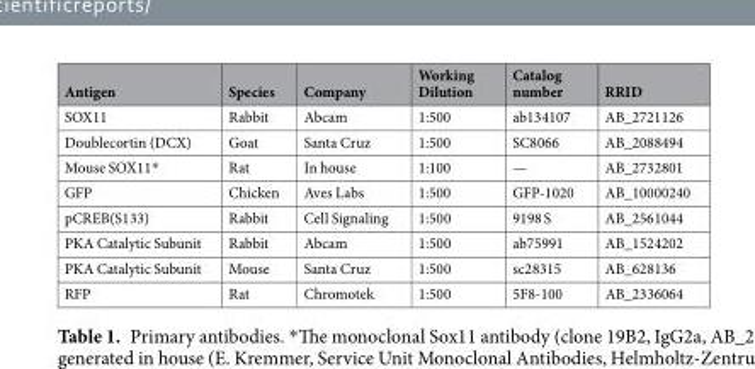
<table><thead><tr><td>Antigen</td><td>Species</td><td>Company</td><td>Working Dilution</td><td>Catalog number</td><td>RRID</td></tr></thead><tbody><tr><td>SOX11</td><td>Rabbit</td><td>Abcam</td><td>1:500</td><td>ab134107</td><td>AB_2721126</td></tr><tr><td>Doublecortin (DCX)</td><td>Goat</td><td>Santa Cruz</td><td>1:500</td><td>SC8066</td><td>AB_2088494</td></tr><tr><td>Mouse SOX11*</td><td>Rat</td><td>In house</td><td>1:100</td><td>—</td><td>AB_2732801</td></tr><tr><td>GFP</td><td>Chicken</td><td>Aves Labs</td><td>1:500</td><td>GFP-1020</td><td>AB_10000240</td></tr><tr><td>pCREB(S133)</td><td>Rabbit</td><td>Cell Signaling</td><td>1:500</td><td>9198 S</td><td>AB_2561044</td></tr><tr><td>PKA Catalytic Subunit</td><td>Rabbit</td><td>Abcam</td><td>1:500</td><td>ab75991</td><td>AB_1524202</td></tr><tr><td>PKA Catalytic Subunit</td><td>Mouse</td><td>Santa Cruz</td><td>1:500</td><td>sc28315</td><td>AB_628136</td></tr><tr><td>RFP</td><td>Rat</td><td>Chromotek</td><td>1:500</td><td>5F8-100</td><td>AB_2336064</td></tr></tbody></table>